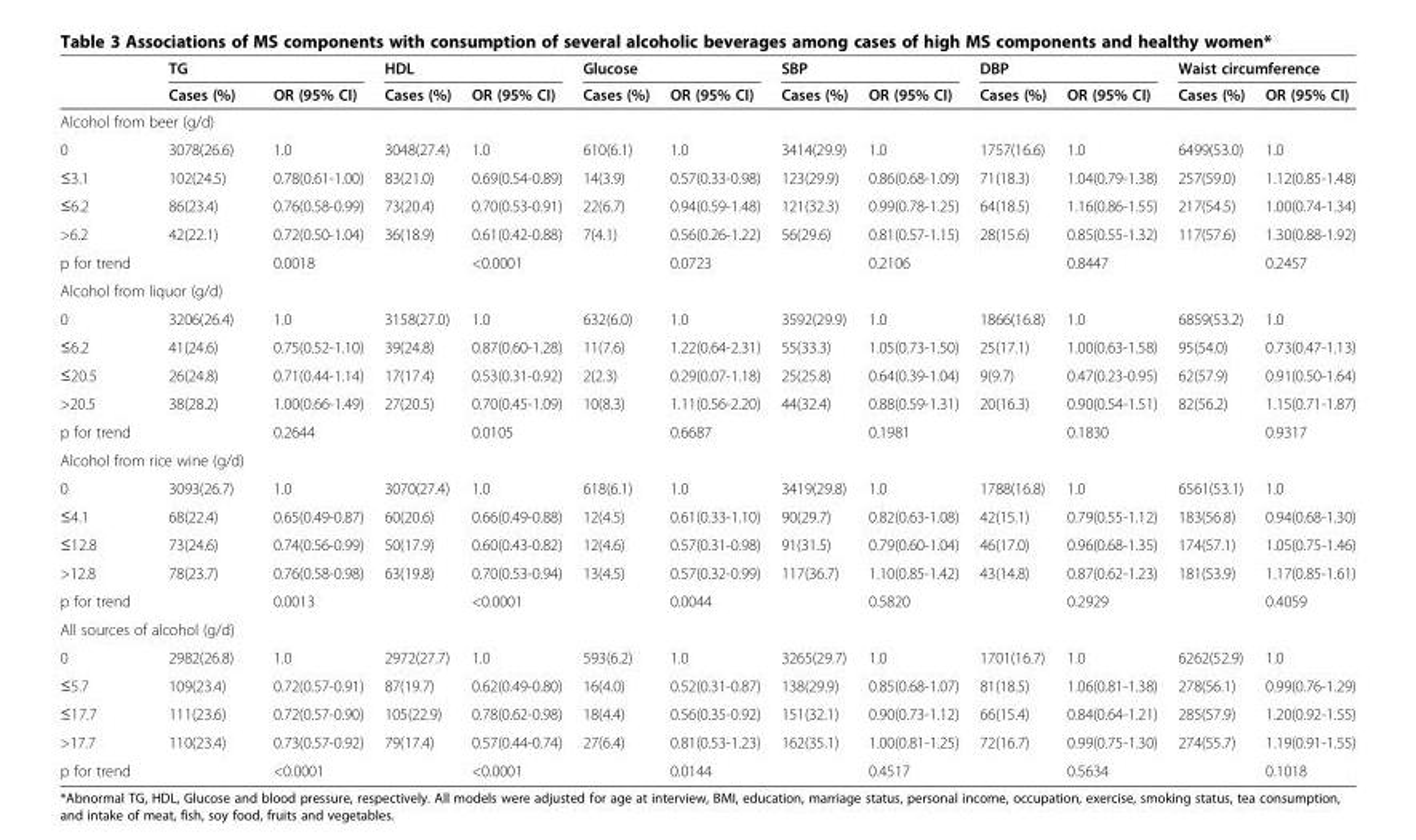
<table><thead><tr><td rowspan="2"></td><td colspan="2">TG</td><td colspan="2">HDL</td><td colspan="2">Glucose</td><td colspan="2">SBP</td><td colspan="2">DBP</td><td colspan="2">Waist circumference</td></tr><tr><td>Cases (%)</td><td>OR (95% CI)</td><td>Cases (%)</td><td>OR (95% CI)</td><td>Cases (%)</td><td>OR (95% CI)</td><td>Cases (%)</td><td>OR (95% CI)</td><td>Cases (%)</td><td>OR (95% CI)</td><td>Cases (%)</td><td>OR (95% CI)</td></tr></thead><tbody><tr><td colspan="13">Alcohol from beer (g/d)</td></tr><tr><td>0</td><td>3078(26.6)</td><td>1.0</td><td>3048(27.4)</td><td>1.0</td><td>610(6.1)</td><td>1.0</td><td>3414(29.9)</td><td>1.0</td><td>1757(16.6)</td><td>1.0</td><td>6499(53.0)</td><td>1.0</td></tr><tr><td>≤3.1</td><td>102(24.5)</td><td>0.78(0.61-1.00)</td><td>83(21.0)</td><td>0.69(0.54-0.89)</td><td>14(3.9)</td><td>0.57(0.33-0.98)</td><td>123(29.9)</td><td>0.86(0.68-1.09)</td><td>71(18.3)</td><td>1.04(0.79-1.38)</td><td>257(59.0)</td><td>1.12(0.85-1.48)</td></tr><tr><td>≤6.2</td><td>86(23.4)</td><td>0.76(0.58-0.99)</td><td>73(20.4)</td><td>0.70(0.53-0.91)</td><td>22(6.7)</td><td>0.94(0.59-1.48)</td><td>121(32.3)</td><td>0.99(0.78-1.25)</td><td>64(18.5)</td><td>1.16(0.86-1.55)</td><td>217(54.5)</td><td>1.00(0.74-1.34)</td></tr><tr><td>&gt;6.2</td><td>42(22.1)</td><td>0.72(0.50-1.04)</td><td>36(18.9)</td><td>0.61(0.42-0.88)</td><td>7(4.1)</td><td>0.56(0.26-1.22)</td><td>56(29.6)</td><td>0.81(0.57-1.15)</td><td>28(15.6)</td><td>0.85(0.55-1.32)</td><td>117(57.6)</td><td>1.30(0.88-1.92)</td></tr><tr><td>p for trend</td><td></td><td>0.0018</td><td></td><td>&lt;0.0001</td><td></td><td>0.0723</td><td></td><td>0.2106</td><td></td><td>0.8447</td><td></td><td>0.2457</td></tr><tr><td colspan="13">Alcohol from liquor (g/d)</td></tr><tr><td>0</td><td>3206(26.4)</td><td>1.0</td><td>3158(27.0)</td><td>1.0</td><td>632(6.0)</td><td>1.0</td><td>3592(29.9)</td><td>1.0</td><td>1866(16.8)</td><td>1.0</td><td>6859(53.2)</td><td>1.0</td></tr><tr><td>≤6.2</td><td>41(24.6)</td><td>0.75(0.52-1.10)</td><td>39(24.8)</td><td>0.87(0.60-1.28)</td><td>11(7.6)</td><td>1.22(0.64-2.31)</td><td>55(33.3)</td><td>1.05(0.73-1.50)</td><td>25(17.1)</td><td>1.00(0.63-1.58)</td><td>95(54.0)</td><td>0.73(0.47-1.13)</td></tr><tr><td>≤20.5</td><td>26(24.8)</td><td>0.71(0.44-1.14)</td><td>17(17.4)</td><td>0.53(0.31-0.92)</td><td>2(2.3)</td><td>0.29(0.07-1.18)</td><td>25(25.8)</td><td>0.64(0.39-1.04)</td><td>9(9.7)</td><td>0.47(0.23-0.95)</td><td>62(57.9)</td><td>0.91(0.50-1.64)</td></tr><tr><td>&gt;20.5</td><td>38(28.2)</td><td>1.00(0.66-1.49)</td><td>27(20.5)</td><td>0.70(0.45-1.09)</td><td>10(8.3)</td><td>1.11(0.56-2.20)</td><td>44(32.4)</td><td>0.88(0.59-1.31)</td><td>20(16.3)</td><td>0.90(0.54-1.51)</td><td>82(56.2)</td><td>1.15(0.71-1.87)</td></tr><tr><td>p for trend</td><td></td><td>0.2644</td><td></td><td>0.0105</td><td></td><td>0.6687</td><td></td><td>0.1981</td><td></td><td>0.1830</td><td></td><td>0.9317</td></tr><tr><td colspan="13">Alcohol from rice wine (g/d)</td></tr><tr><td>0</td><td>3093(26.7)</td><td>1.0</td><td>3070(27.4)</td><td>1.0</td><td>618(6.1)</td><td>1.0</td><td>3419(29.8)</td><td>1.0</td><td>1788(16.8)</td><td>1.0</td><td>6561(53.1)</td><td>1.0</td></tr><tr><td>≤4.1</td><td>68(22.4)</td><td>0.65(0.49-0.87)</td><td>60(20.6)</td><td>0.66(0.49-0.88)</td><td>12(4.5)</td><td>0.61(0.33-1.10)</td><td>90(29.7)</td><td>0.82(0.63-1.08)</td><td>42(15.1)</td><td>0.79(0.55-1.12)</td><td>183(56.8)</td><td>0.94(0.68-1.30)</td></tr><tr><td>≤12.8</td><td>73(24.6)</td><td>0.74(0.56-0.99)</td><td>50(17.9)</td><td>0.60(0.43-0.82)</td><td>12(4.6)</td><td>0.57(0.31-0.98)</td><td>91(31.5)</td><td>0.79(0.60-1.04)</td><td>46(17.0)</td><td>0.96(0.68-1.35)</td><td>174(57.1)</td><td>1.05(0.75-1.46)</td></tr><tr><td>&gt;12.8</td><td>78(23.7)</td><td>0.76(0.58-0.98)</td><td>63(19.8)</td><td>0.70(0.53-0.94)</td><td>13(4.5)</td><td>0.57(0.32-0.99)</td><td>117(36.7)</td><td>1.10(0.85-1.42)</td><td>43(14.8)</td><td>0.87(0.62-1.23)</td><td>181(53.9)</td><td>1.17(0.85-1.61)</td></tr><tr><td>p for trend</td><td></td><td>0.0013</td><td></td><td>&lt;0.0001</td><td></td><td>0.0044</td><td></td><td>0.5820</td><td></td><td>0.2929</td><td></td><td>0.4059</td></tr><tr><td colspan="13">All sources of alcohol (g/d)</td></tr><tr><td>0</td><td>2982(26.8)</td><td>1.0</td><td>2972(27.7)</td><td>1.0</td><td>593(6.2)</td><td>1.0</td><td>3265(29.7)</td><td>1.0</td><td>1701(16.7)</td><td>1.0</td><td>6262(52.9)</td><td>1.0</td></tr><tr><td>≤5.7</td><td>109(23.4)</td><td>0.72(0.57-0.91)</td><td>87(19.7)</td><td>0.62(0.49-0.80)</td><td>16(4.0)</td><td>0.52(0.31-0.87)</td><td>138(29.9)</td><td>0.85(0.68-1.07)</td><td>81(18.5)</td><td>1.06(0.81-1.38)</td><td>278(56.1)</td><td>0.99(0.76-1.29)</td></tr><tr><td>≤17.7</td><td>111(23.6)</td><td>0.72(0.57-0.90)</td><td>105(22.9)</td><td>0.78(0.62-0.98)</td><td>18(4.4)</td><td>0.56(0.35-0.92)</td><td>151(32.1)</td><td>0.90(0.73-1.12)</td><td>66(15.4)</td><td>0.84(0.64-1.21)</td><td>285(57.9)</td><td>1.20(0.92-1.55)</td></tr><tr><td>&gt;17.7</td><td>110(23.4)</td><td>0.73(0.57-0.92)</td><td>79(17.4)</td><td>0.57(0.44-0.74)</td><td>27(6.4)</td><td>0.81(0.53-1.23)</td><td>162(35.1)</td><td>1.00(0.81-1.25)</td><td>72(16.7)</td><td>0.99(0.75-1.30)</td><td>274(55.7)</td><td>1.19(0.91-1.55)</td></tr><tr><td>p for trend</td><td></td><td>&lt;0.0001</td><td></td><td>&lt;0.0001</td><td></td><td>0.0144</td><td></td><td>0.4517</td><td></td><td>0.5634</td><td></td><td>0.1018</td></tr></tbody></table>